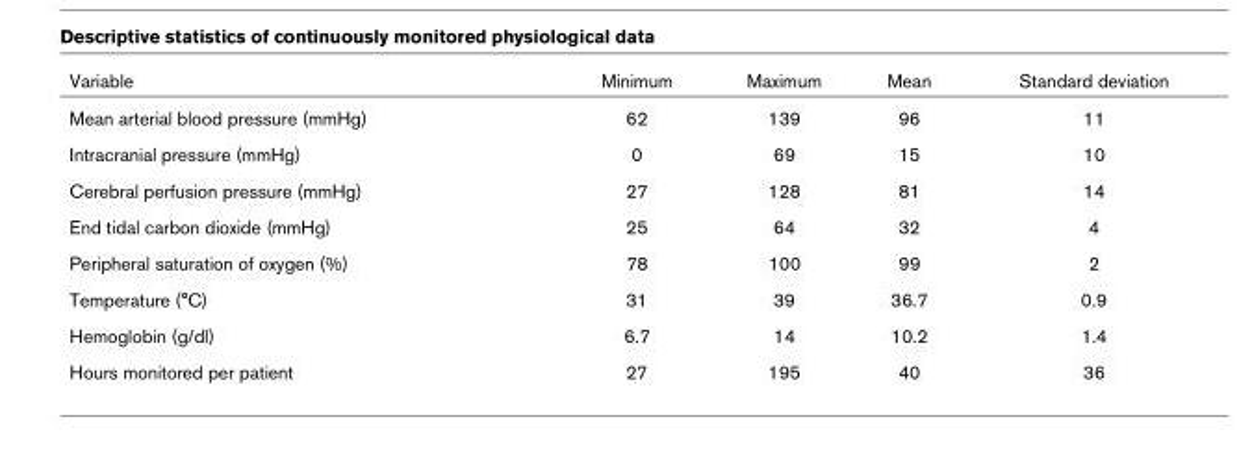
<table><thead><tr><td>Variable</td><td>Minimum</td><td>Maximum</td><td>Mean</td><td>Standard deviation</td></tr></thead><tbody><tr><td>Mean arterial blood pressure (mmHg)</td><td>62</td><td>139</td><td>96</td><td>11</td></tr><tr><td>Intracranial pressure (mmHg)</td><td>0</td><td>69</td><td>15</td><td>10</td></tr><tr><td>Cerebral perfusion pressure (mmHg)</td><td>27</td><td>128</td><td>81</td><td>14</td></tr><tr><td>End tidal carbon dioxide (mmHg)</td><td>25</td><td>64</td><td>32</td><td>4</td></tr><tr><td>Peripheral saturation of oxygen (%)</td><td>78</td><td>100</td><td>99</td><td>2</td></tr><tr><td>Temperature (°C)</td><td>31</td><td>39</td><td>36.7</td><td>0.9</td></tr><tr><td>Hemoglobin (g/dl)</td><td>6.7</td><td>14</td><td>10.2</td><td>1.4</td></tr><tr><td>Hours monitored per patient</td><td>27</td><td>195</td><td>40</td><td>36</td></tr></tbody></table>